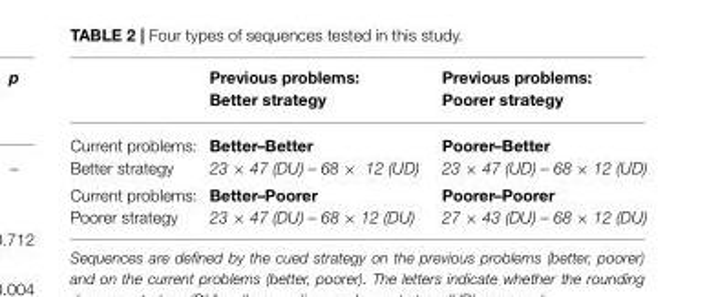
<table><thead><tr><td></td><td>Previous problems: Better strategy</td><td>Previous problems: Poorer strategy</td></tr></thead><tbody><tr><td>Current problems: Better strategy</td><td>Better–Better 23 × 47 (DU) – 68 × 12 (UD)</td><td>Poorer–Better 23 × 47 (UD) – 68 × 12 (UD)</td></tr><tr><td>Current problems: Poorer strategy</td><td>Better–Poorer 23 × 47 (DU) – 68 × 12 (DU)</td><td>Poorer–Poorer 27 × 43 (DU) – 68 × 12 (DU)</td></tr></tbody></table>